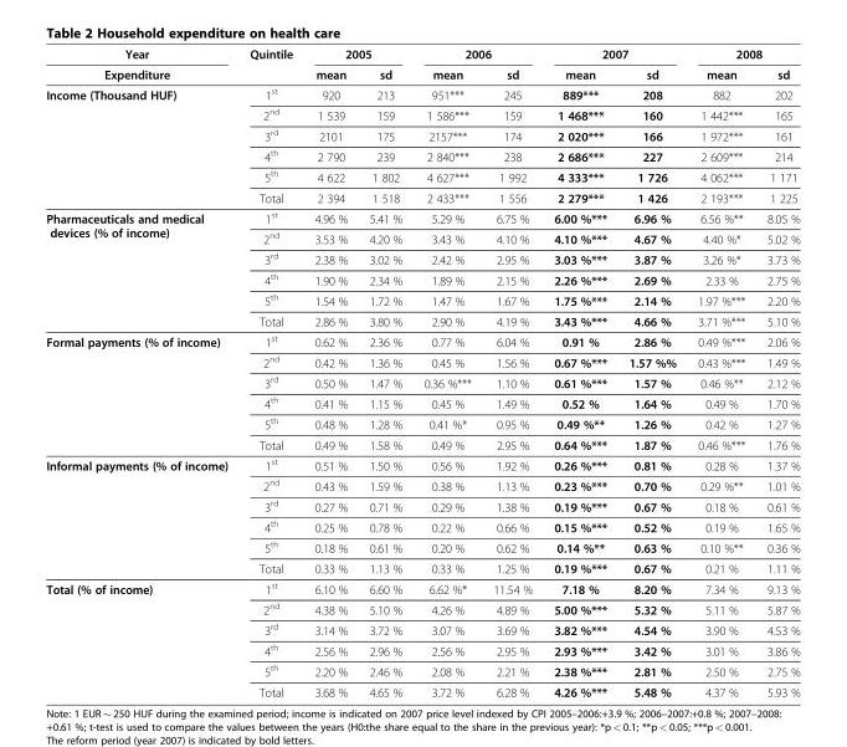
<table><thead><tr><td rowspan="2">Year Expenditure</td><td rowspan="2">Quintile</td><td colspan="2">2005</td><td colspan="2">2006</td><td colspan="2">2007</td><td colspan="2">2008</td></tr><tr><td>mean</td><td>sd</td><td>mean</td><td>sd</td><td>mean</td><td>sd</td><td>mean</td><td>sd</td></tr></thead><tbody><tr><td rowspan="6">Income (Thousand HUF)</td><td>1<sup>st</sup></td><td>920</td><td>213</td><td>951***</td><td>245</td><td>889***</td><td>208</td><td>882</td><td>202</td></tr><tr><td>2<sup>nd</sup></td><td>1 539</td><td>159</td><td>1 586***</td><td>159</td><td>1 468***</td><td>160</td><td>1 442***</td><td>165</td></tr><tr><td>3<sup>rd</sup></td><td>2101</td><td>175</td><td>2157***</td><td>174</td><td>2 020***</td><td>166</td><td>1 972***</td><td>161</td></tr><tr><td>4<sup>th</sup></td><td>2 790</td><td>239</td><td>2 840***</td><td>238</td><td>2 686***</td><td>227</td><td>2 609***</td><td>214</td></tr><tr><td>5<sup>th</sup></td><td>4 622</td><td>1 802</td><td>4 627***</td><td>1 992</td><td>4 333***</td><td>1 726</td><td>4 062***</td><td>1 171</td></tr><tr><td>Total</td><td>2 394</td><td>1 518</td><td>2 433***</td><td>1 556</td><td>2 279***</td><td>1 426</td><td>2 193***</td><td>1 225</td></tr><tr><td rowspan="6">Pharmaceuticals and medical devices (% of income)</td><td>1<sup>st</sup></td><td>4.96 %</td><td>5.41 %</td><td>5.29 %</td><td>6.75 %</td><td>6.00 %***</td><td>6.96 %</td><td>6.56 %**</td><td>8.05 %</td></tr><tr><td>2<sup>nd</sup></td><td>3.53 %</td><td>4.20 %</td><td>3.43 %</td><td>4.10 %</td><td>4.10 %***</td><td>4.67 %</td><td>4.40 %*</td><td>5.02 %</td></tr><tr><td>3<sup>rd</sup></td><td>2.38 %</td><td>3.02 %</td><td>2.42 %</td><td>2.95 %</td><td>3.03 %***</td><td>3.87 %</td><td>3.26 %*</td><td>3.73 %</td></tr><tr><td>4<sup>th</sup></td><td>1.90 %</td><td>2.34 %</td><td>1.89 %</td><td>2.15 %</td><td>2.26 %***</td><td>2.69 %</td><td>2.33 %</td><td>2.75 %</td></tr><tr><td>5<sup>th</sup></td><td>1.54 %</td><td>1.72 %</td><td>1.47 %</td><td>1.67 %</td><td>1.75 %***</td><td>2.14 %</td><td>1.97 %***</td><td>2.20 %</td></tr><tr><td>Total</td><td>2.86 %</td><td>3.80 %</td><td>2.90 %</td><td>4.19 %</td><td>3.43 %***</td><td>4.66 %</td><td>3.71 %***</td><td>5.10 %</td></tr><tr><td rowspan="6">Formal payments (% of income)</td><td>1<sup>st</sup></td><td>0.62 %</td><td>2.36 %</td><td>0.77 %</td><td>6.04 %</td><td>0.91 %</td><td>2.86 %</td><td>0.49 %***</td><td>2.06 %</td></tr><tr><td>2<sup>nd</sup></td><td>0.42 %</td><td>1.36 %</td><td>0.45 %</td><td>1.56 %</td><td>0.67 %***</td><td>1.57 %%</td><td>0.43 %***</td><td>1.49 %</td></tr><tr><td>3<sup>rd</sup></td><td>0.50 %</td><td>1.47 %</td><td>0.36 %***</td><td>1.10 %</td><td>0.61 %***</td><td>1.57 %</td><td>0.46 %**</td><td>2.12 %</td></tr><tr><td>4<sup>th</sup></td><td>0.41 %</td><td>1.15 %</td><td>0.45 %</td><td>1.49 %</td><td>0.52 %</td><td>1.64 %</td><td>0.49 %</td><td>1.70 %</td></tr><tr><td>5<sup>th</sup></td><td>0.48 %</td><td>1.28 %</td><td>0.41 %*</td><td>0.95 %</td><td>0.49 %**</td><td>1.26 %</td><td>0.42 %</td><td>1.27 %</td></tr><tr><td>Total</td><td>0.49 %</td><td>1.58 %</td><td>0.49 %</td><td>2.95 %</td><td>0.64 %***</td><td>1.87 %</td><td>0.46 %***</td><td>1.76 %</td></tr><tr><td rowspan="6">Informal payments (% of income)</td><td>1<sup>st</sup></td><td>0.51 %</td><td>1.50 %</td><td>0.56 %</td><td>1.92 %</td><td>0.26 %***</td><td>0.81 %</td><td>0.28 %</td><td>1.37 %</td></tr><tr><td>2<sup>nd</sup></td><td>0.43 %</td><td>1.59 %</td><td>0.38 %</td><td>1.13 %</td><td>0.23 %***</td><td>0.70 %</td><td>0.29 %**</td><td>1.01 %</td></tr><tr><td>3<sup>rd</sup></td><td>0.27 %</td><td>0.71 %</td><td>0.29 %</td><td>1.38 %</td><td>0.19 %***</td><td>0.67 %</td><td>0.18 %</td><td>0.61 %</td></tr><tr><td>4<sup>th</sup></td><td>0.25 %</td><td>0.78 %</td><td>0.22 %</td><td>0.66 %</td><td>0.15 %***</td><td>0.52 %</td><td>0.19 %</td><td>1.65 %</td></tr><tr><td>5<sup>th</sup></td><td>0.18 %</td><td>0.61 %</td><td>0.20 %</td><td>0.62 %</td><td>0.14 %**</td><td>0.63 %</td><td>0.10 %**</td><td>0.36 %</td></tr><tr><td>Total</td><td>0.33 %</td><td>1.13 %</td><td>0.33 %</td><td>1.25 %</td><td>0.19 %***</td><td>0.67 %</td><td>0.21 %</td><td>1.11 %</td></tr><tr><td rowspan="6">Total (% of income)</td><td>1<sup>st</sup></td><td>6.10 %</td><td>6.60 %</td><td>6.62 %*</td><td>11.54 %</td><td>7.18 %</td><td>8.20 %</td><td>7.34 %</td><td>9.13 %</td></tr><tr><td>2<sup>nd</sup></td><td>4.38 %</td><td>5.10 %</td><td>4.26 %</td><td>4.89 %</td><td>5.00 %***</td><td>5.32 %</td><td>5.11 %</td><td>5.87 %</td></tr><tr><td>3<sup>rd</sup></td><td>3.14 %</td><td>3.72 %</td><td>3.07 %</td><td>3.69 %</td><td>3.82 %***</td><td>4.54 %</td><td>3.90 %</td><td>4.53 %</td></tr><tr><td>4<sup>th</sup></td><td>2.56 %</td><td>2.96 %</td><td>2.56 %</td><td>2.95 %</td><td>2.93 %***</td><td>3.42 %</td><td>3.01 %</td><td>3.86 %</td></tr><tr><td>5<sup>th</sup></td><td>2.20 %</td><td>2.46 %</td><td>2.08 %</td><td>2.21 %</td><td>2.38 %***</td><td>2.81 %</td><td>2.50 %</td><td>2.75 %</td></tr><tr><td>Total</td><td>3.68 %</td><td>4.65 %</td><td>3.72 %</td><td>6.28 %</td><td>4.26 %***</td><td>5.48 %</td><td>4.37 %</td><td>5.93 %</td></tr></tbody></table>